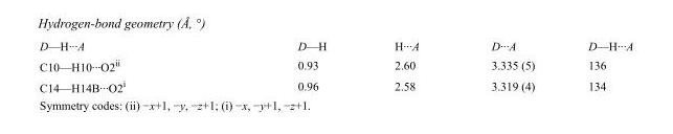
<table><tbody><tr><td>D—H···A</td><td>D—H</td><td>H···A</td><td>D···A</td><td>D—H···A</td></tr><tr><td>C10—H10···O2<sup>ii</sup></td><td>0.93</td><td>2.60</td><td>3.335 (5)</td><td>136</td></tr><tr><td>C14—H14B···O2<sup>i</sup></td><td>0.96</td><td>2.58</td><td>3.319 (4)</td><td>134</td></tr></tbody></table>